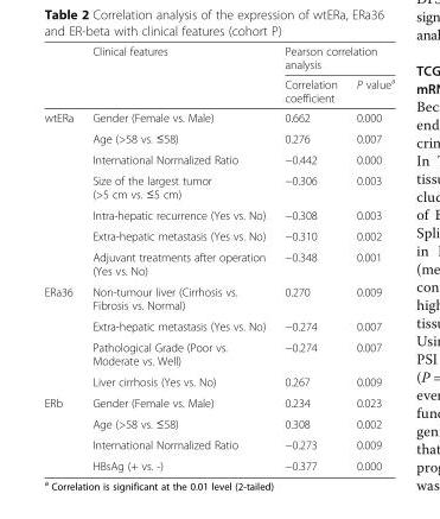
<table><thead><tr><td rowspan="2"></td><td rowspan="2">Clinical features</td><td colspan="2">Pearson correlation analysis</td></tr><tr><td>Correlation coefficient</td><td>P value<sup>a</sup></td></tr></thead><tbody><tr><td rowspan="7">wtERa</td><td>Gender (Female vs. Male)</td><td>0.662</td><td>0.000</td></tr><tr><td>Age (&gt;58 vs. ≤58)</td><td>0.276</td><td>0.007</td></tr><tr><td>International Normalized Ratio</td><td>−0.442</td><td>0.000</td></tr><tr><td>Size of the largest tumor (&gt;5 cm vs. ≤5 cm)</td><td>−0.306</td><td>0.003</td></tr><tr><td>Intra-hepatic recurrence (Yes vs. No)</td><td>−0.308</td><td>0.003</td></tr><tr><td>Extra-hepatic metastasis (Yes vs. No)</td><td>−0.310</td><td>0.002</td></tr><tr><td>Adjuvant treatments after operation (Yes vs. No)</td><td>−0.348</td><td>0.001</td></tr><tr><td rowspan="4">ERa36</td><td>Non-tumour liver (Cirrhosis vs. Fibrosis vs. Normal)</td><td>0.270</td><td>0.009</td></tr><tr><td>Extra-hepatic metastasis (Yes vs. No)</td><td>−0.274</td><td>0.007</td></tr><tr><td>Pathological Grade (Poor vs. Moderate vs. Well)</td><td>−0.274</td><td>0.007</td></tr><tr><td>Liver cirrhosis (Yes vs. No)</td><td>0.267</td><td>0.009</td></tr><tr><td rowspan="4">ERb</td><td>Gender (Female vs. Male)</td><td>0.234</td><td>0.023</td></tr><tr><td>Age (&gt;58 vs. ≤58)</td><td>0.308</td><td>0.002</td></tr><tr><td>International Normalized Ratio</td><td>−0.273</td><td>0.009</td></tr><tr><td>HBsAg (+ vs. -)</td><td>−0.377</td><td>0.000</td></tr></tbody></table>